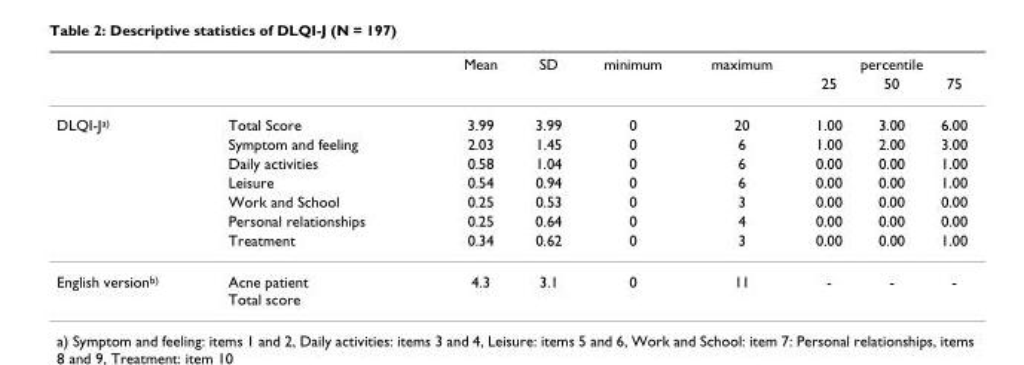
<table><thead><tr><td rowspan="2"></td><td rowspan="2"></td><td rowspan="2">Mean</td><td rowspan="2">SD</td><td rowspan="2">minimum</td><td rowspan="2">maximum</td><td colspan="3">percentile</td></tr><tr><td>25</td><td>50</td><td>75</td></tr></thead><tbody><tr><td rowspan="7">DLQI-J<sup>a)</sup></td><td>Total Score</td><td>3.99</td><td>3.99</td><td>0</td><td>20</td><td>1.00</td><td>3.00</td><td>6.00</td></tr><tr><td>Symptom and feeling</td><td>2.03</td><td>1.45</td><td>0</td><td>6</td><td>1.00</td><td>2.00</td><td>3.00</td></tr><tr><td>Daily activities</td><td>0.58</td><td>1.04</td><td>0</td><td>6</td><td>0.00</td><td>0.00</td><td>1.00</td></tr><tr><td>Leisure</td><td>0.54</td><td>0.94</td><td>0</td><td>6</td><td>0.00</td><td>0.00</td><td>1.00</td></tr><tr><td>Work and School</td><td>0.25</td><td>0.53</td><td>0</td><td>3</td><td>0.00</td><td>0.00</td><td>0.00</td></tr><tr><td>Personal relationships</td><td>0.25</td><td>0.64</td><td>0</td><td>4</td><td>0.00</td><td>0.00</td><td>0.00</td></tr><tr><td>Treatment</td><td>0.34</td><td>0.62</td><td>0</td><td>3</td><td>0.00</td><td>0.00</td><td>1.00</td></tr><tr><td>English version<sup>b)</sup></td><td>Acne patient Total score</td><td>4.3</td><td>3.1</td><td>0</td><td>11</td><td>-</td><td>-</td><td>-</td></tr></tbody></table>